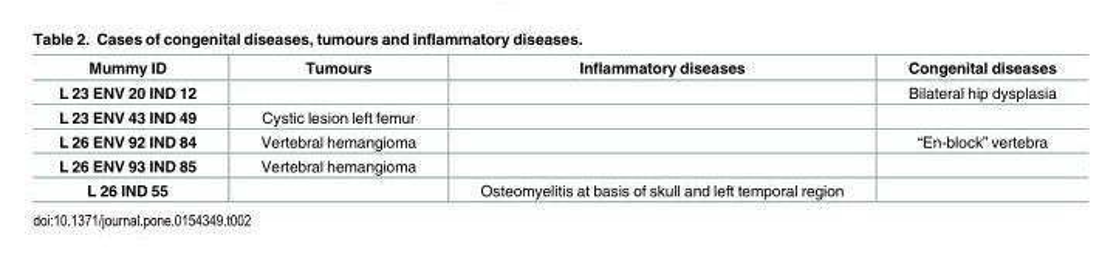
<table><thead><tr><td>Mummy ID</td><td>Tumours</td><td>Inflammatory diseases</td><td>Congenital diseases</td></tr></thead><tbody><tr><td>L 23 ENV 20 IND 12</td><td></td><td></td><td>Bilateral hip dysplasia</td></tr><tr><td>L 23 ENV 43 IND 49</td><td>Cystic lesion left femur</td><td></td><td></td></tr><tr><td>L 26 ENV 92 IND 84</td><td>Vertebral hemangioma</td><td></td><td>“En-block” vertebra</td></tr><tr><td>L 26 ENV 93 IND 85</td><td>Vertebral hemangioma</td><td></td><td></td></tr><tr><td>L 26 IND 55</td><td></td><td>Osteomyelitis at basis of skull and left temporal region</td><td></td></tr></tbody></table>